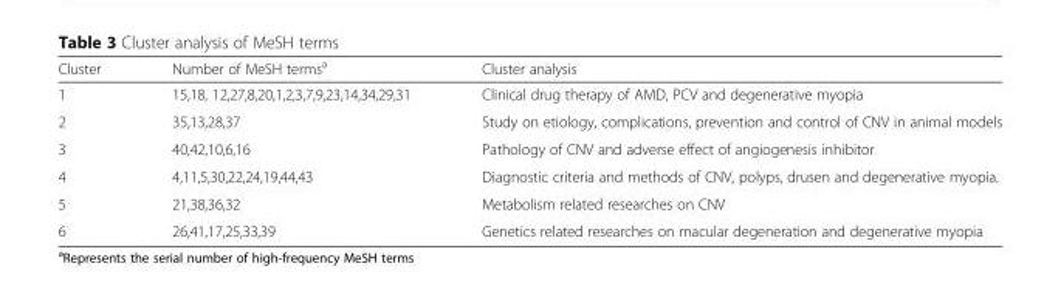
<table><thead><tr><td>Cluster</td><td>Number of MeSH terms<sup>a</sup></td><td>Cluster analysis</td></tr></thead><tbody><tr><td>1</td><td>15,18, 12,27,8,20,1,2,3,7,9,23,14,34,29,31</td><td>Clinical drug therapy of AMD, PCV and degenerative myopia</td></tr><tr><td>2</td><td>35,13,28,37</td><td>Study on etiology, complications, prevention and control of CNV in animal models</td></tr><tr><td>3</td><td>40,42,10,6,16</td><td>Pathology of CNV and adverse effect of angiogenesis inhibitor</td></tr><tr><td>4</td><td>4,11,5,30,22,24,19,44,43</td><td>Diagnostic criteria and methods of CNV, polyps, drusen and degenerative myopia.</td></tr><tr><td>5</td><td>21,38,36,32</td><td>Metabolism related researches on CNV</td></tr><tr><td>6</td><td>26,41,17,25,33,39</td><td>Genetics related researches on macular degeneration and degenerative myopia</td></tr></tbody></table>